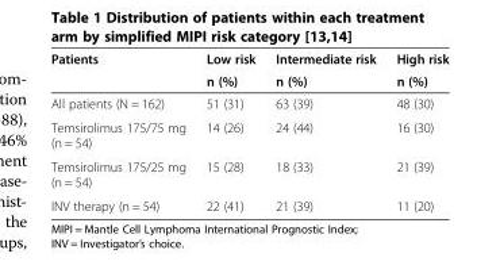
<table><thead><tr><td rowspan="2">Patients</td><td rowspan="2">Low risk n (%)</td><td rowspan="2">Intermediate risk n (%)</td><td rowspan="2">High risk n (%)</td></tr><tr></tr></thead><tbody><tr><td>All patients (N = 162)</td><td>51 (31)</td><td>63 (39)</td><td>48 (30)</td></tr><tr><td>Temsirolimus 175/75 mg (n = 54)</td><td>14 (26)</td><td>24 (44)</td><td>16 (30)</td></tr><tr><td>Temsirolimus 175/25 mg (n = 54)</td><td>15 (28)</td><td>18 (33)</td><td>21 (39)</td></tr><tr><td>INV therapy (n = 54)</td><td>22 (41)</td><td>21 (39)</td><td>11 (20)</td></tr></tbody></table>